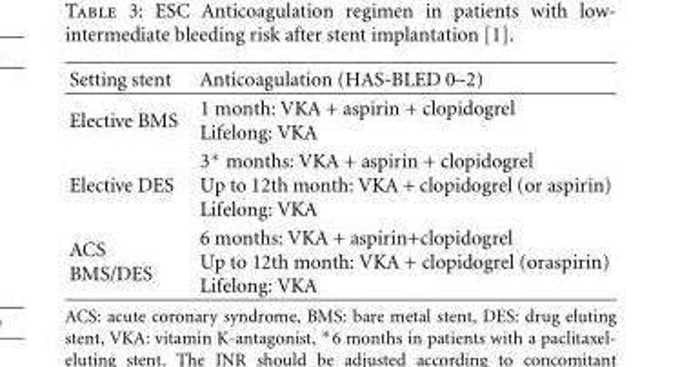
<table><thead><tr><td>Setting stent</td><td>Anticoagulation (HAS-BLED 0–2)</td></tr></thead><tbody><tr><td>Elective BMS</td><td>1 month: VKA + aspirin + clopidogrel Lifelong: VKA</td></tr><tr><td>Elective DES</td><td>3∗ months: VKA + aspirin + clopidogrel Up to 12th month: VKA + clopidogrel (or aspirin) Lifelong: VKA</td></tr><tr><td>ACS BMS/DES</td><td>6 months: VKA + aspirin+clopidogrel Up to 12th month: VKA + clopidogrel (oraspirin) Lifelong: VKA</td></tr></tbody></table>